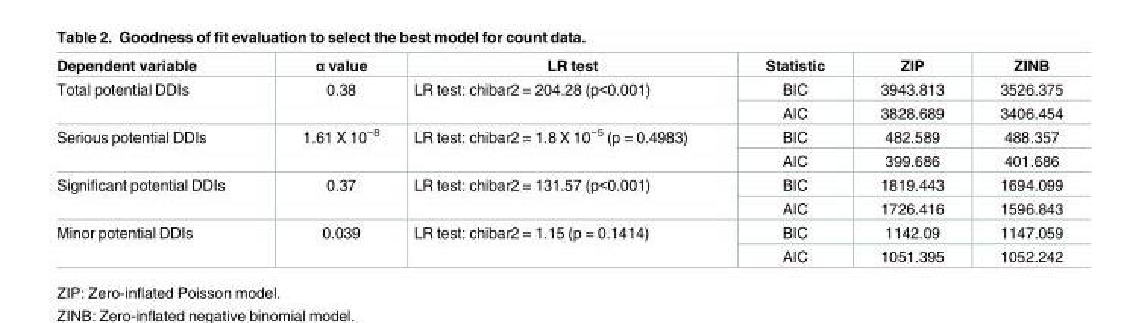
<table><thead><tr><td>Dependent variable</td><td>α value</td><td>LR test</td><td>Statistic</td><td>ZIP</td><td>ZINB</td></tr></thead><tbody><tr><td rowspan="2">Total potential DDIs</td><td rowspan="2">0.38</td><td rowspan="2">LR test: chibar2 = 204.28 (p&lt;0.001)</td><td>BIC</td><td>3943.813</td><td>3526.375</td></tr><tr><td>AIC</td><td>3828.689</td><td>3406.454</td></tr><tr><td rowspan="2">Serious potential DDIs</td><td rowspan="2">1.61 X 10<sup>−8</sup></td><td rowspan="2">LR test: chibar2 = 1.8 X 10<sup>−5</sup> (p = 0.4983)</td><td>BIC</td><td>482.589</td><td>488.357</td></tr><tr><td>AIC</td><td>399.686</td><td>401.686</td></tr><tr><td rowspan="2">Significant potential DDIs</td><td rowspan="2">0.37</td><td rowspan="2">LR test: chibar2 = 131.57 (p&lt;0.001)</td><td>BIC</td><td>1819.443</td><td>1694.099</td></tr><tr><td>AIC</td><td>1726.416</td><td>1596.843</td></tr><tr><td rowspan="2">Minor potential DDIs</td><td rowspan="2">0.039</td><td rowspan="2">LR test: chibar2 = 1.15 (p = 0.1414)</td><td>BIC</td><td>1142.09</td><td>1147.059</td></tr><tr><td>AIC</td><td>1051.395</td><td>1052.242</td></tr></tbody></table>